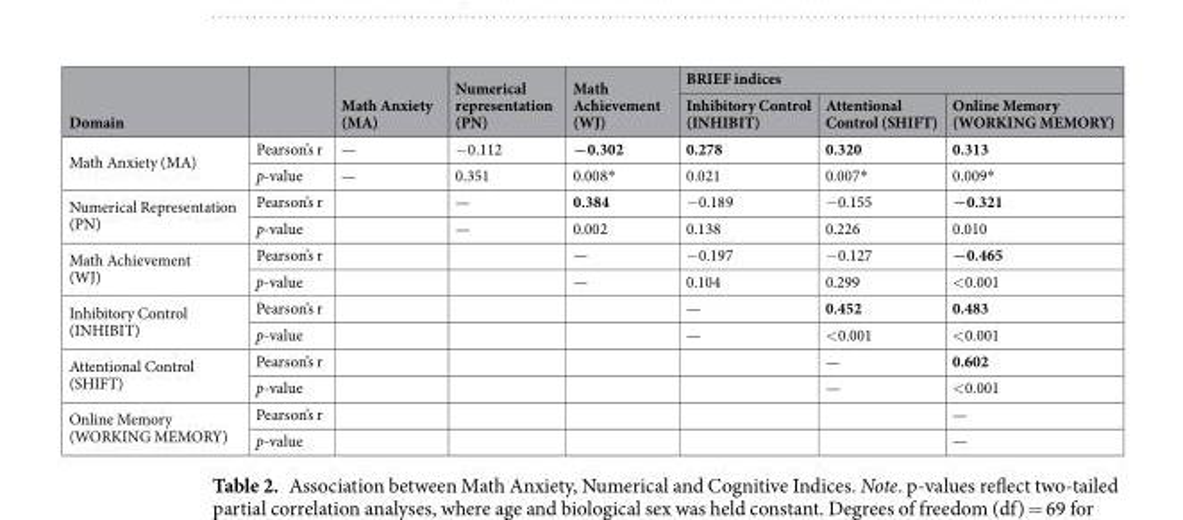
<table><thead><tr><td rowspan="2">Domain</td><td rowspan="2"></td><td rowspan="2">Math Anxiety (MA)</td><td rowspan="2">Numerical representation (PN)</td><td rowspan="2">Math Achievement (WJ)</td><td colspan="3">BRIEF indices</td></tr><tr><td>Inhibitory Control (INHIBIT)</td><td>Attentional Control (SHIFT)</td><td>Online Memory (WORKING MEMORY)</td></tr></thead><tbody><tr><td rowspan="2">Math Anxiety (MA)</td><td>Pearson’s r</td><td>—</td><td>−0.112</td><td>−0.302</td><td>0.278</td><td>0.320</td><td>0.313</td></tr><tr><td>p-value</td><td>—</td><td>0.351</td><td>0.008*</td><td>0.021</td><td>0.007*</td><td>0.009*</td></tr><tr><td rowspan="2">Numerical Representation (PN)</td><td>Pearson’s r</td><td></td><td>—</td><td>0.384</td><td>−0.189</td><td>−0.155</td><td>−0.321</td></tr><tr><td>p-value</td><td></td><td>—</td><td>0.002</td><td>0.138</td><td>0.226</td><td>0.010</td></tr><tr><td rowspan="2">Math Achievement (WJ)</td><td>Pearson’s r</td><td></td><td></td><td>—</td><td>−0.197</td><td>−0.127</td><td>−0.465</td></tr><tr><td>p-value</td><td></td><td></td><td>—</td><td>0.104</td><td>0.299</td><td>&lt;0.001</td></tr><tr><td rowspan="2">Inhibitory Control (INHIBIT)</td><td>Pearson’s r</td><td></td><td></td><td></td><td>—</td><td>0.452</td><td>0.483</td></tr><tr><td>p-value</td><td></td><td></td><td></td><td>—</td><td>&lt;0.001</td><td>&lt;0.001</td></tr><tr><td rowspan="2">Attentional Control (SHIFT)</td><td>Pearson’s r</td><td></td><td></td><td></td><td></td><td>—</td><td>0.602</td></tr><tr><td>p-value</td><td></td><td></td><td></td><td></td><td>—</td><td>&lt;0.001</td></tr><tr><td rowspan="2">Online Memory (WORKING MEMORY)</td><td>Pearson’s r</td><td></td><td></td><td></td><td></td><td></td><td>—</td></tr><tr><td>p-value</td><td></td><td></td><td></td><td></td><td></td><td>—</td></tr></tbody></table>